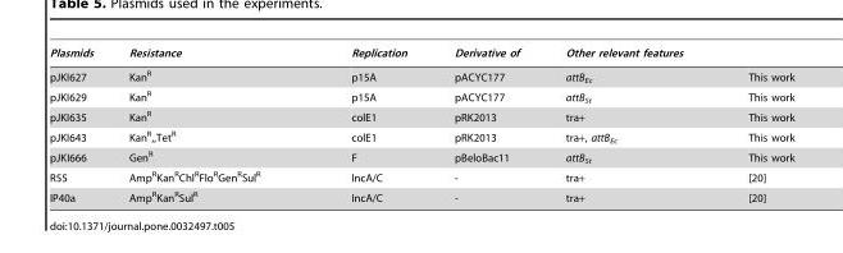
<table><thead><tr><td>Plasmids</td><td>Resistance</td><td>Replication</td><td>Derivative of</td><td>Other relevant features</td><td></td></tr></thead><tbody><tr><td>pJKI627</td><td>Kan<sup>R</sup></td><td>p15A</td><td>pACYC177</td><td>attB<sub>Ec</sub></td><td>This work</td></tr><tr><td>pJKI629</td><td>Kan<sup>R</sup></td><td>p15A</td><td>pACYC177</td><td>attB<sub>St</sub></td><td>This work</td></tr><tr><td>pJKI635</td><td>Kan<sup>R</sup></td><td>colE1</td><td>pRK2013</td><td>tra+</td><td>This work</td></tr><tr><td>pJKI643</td><td>Kan<sup>R</sup>,,Tet<sup>R</sup></td><td>colE1</td><td>pRK2013</td><td>tra+, attB<sub>Ec</sub></td><td>This work</td></tr><tr><td>pJKI666</td><td>Gen<sup>R</sup></td><td>F</td><td>pBeloBac11</td><td>attB<sub>St</sub></td><td>This work</td></tr><tr><td>R55</td><td>Amp<sup>R</sup>Kan<sup>R</sup>Chl<sup>R</sup>Flo<sup>R</sup>Gen<sup>R</sup>Sul<sup>R</sup></td><td>IncA/C</td><td>-</td><td>tra+</td><td>[20]</td></tr><tr><td>IP40a</td><td>Amp<sup>R</sup>Kan<sup>R</sup>Sul<sup>R</sup></td><td>IncA/C</td><td>-</td><td>tra+</td><td>[20]</td></tr></tbody></table>